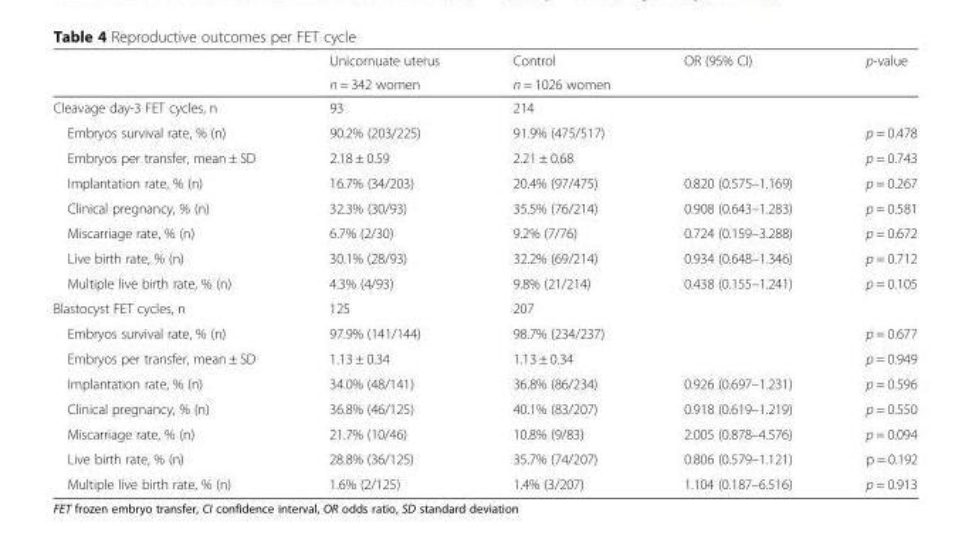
<table><thead><tr><td rowspan="2"></td><td rowspan="2">Unicornuate uterus n = 342 women</td><td rowspan="2">Control n = 1026 women</td><td rowspan="2">OR (95% CI)</td><td rowspan="2">p-value</td></tr><tr></tr></thead><tbody><tr><td>Cleavage day-3 FET cycles, n</td><td>93</td><td>214</td><td></td><td></td></tr><tr><td>Embryos survival rate, % (n)</td><td>90.2% (203/225)</td><td>91.9% (475/517)</td><td></td><td>p = 0.478</td></tr><tr><td>Embryos per transfer, mean ± SD</td><td>2.18 ± 0.59</td><td>2.21 ± 0.68</td><td></td><td>p = 0.743</td></tr><tr><td>Implantation rate, % (n)</td><td>16.7% (34/203)</td><td>20.4% (97/475)</td><td>0.820 (0.575–1.169)</td><td>p = 0.267</td></tr><tr><td>Clinical pregnancy, % (n)</td><td>32.3% (30/93)</td><td>35.5% (76/214)</td><td>0.908 (0.643–1.283)</td><td>p = 0.581</td></tr><tr><td>Miscarriage rate, % (n)</td><td>6.7% (2/30)</td><td>9.2% (7/76)</td><td>0.724 (0.159–3.288)</td><td>p = 0.672</td></tr><tr><td>Live birth rate, % (n)</td><td>30.1% (28/93)</td><td>32.2% (69/214)</td><td>0.934 (0.648–1.346)</td><td>p = 0.712</td></tr><tr><td>Multiple live birth rate, % (n)</td><td>4.3% (4/93)</td><td>9.8% (21/214)</td><td>0.438 (0.155–1.241)</td><td>p = 0.105</td></tr><tr><td>Blastocyst FET cycles, n</td><td>125</td><td>207</td><td></td><td></td></tr><tr><td>Embryos survival rate, % (n)</td><td>97.9% (141/144)</td><td>98.7% (234/237)</td><td></td><td>p = 0.677</td></tr><tr><td>Embryos per transfer, mean ± SD</td><td>1.13 ± 0.34</td><td>1.13 ± 0.34</td><td></td><td>p = 0.949</td></tr><tr><td>Implantation rate, % (n)</td><td>34.0% (48/141)</td><td>36.8% (86/234)</td><td>0.926 (0.697–1.231)</td><td>p = 0.596</td></tr><tr><td>Clinical pregnancy, % (n)</td><td>36.8% (46/125)</td><td>40.1% (83/207)</td><td>0.918 (0.619–1.219)</td><td>p = 0.550</td></tr><tr><td>Miscarriage rate, % (n)</td><td>21.7% (10/46)</td><td>10.8% (9/83)</td><td>2.005 (0.878–4.576)</td><td>p = 0.094</td></tr><tr><td>Live birth rate, % (n)</td><td>28.8% (36/125)</td><td>35.7% (74/207)</td><td>0.806 (0.579–1.121)</td><td>p = 0.192</td></tr><tr><td>Multiple live birth rate, % (n)</td><td>1.6% (2/125)</td><td>1.4% (3/207)</td><td>1.104 (0.187–6.516)</td><td>p = 0.913</td></tr></tbody></table>